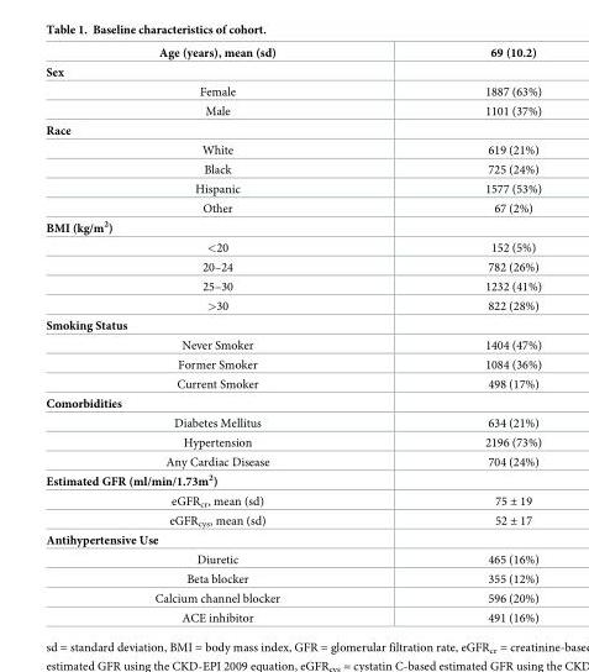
<table><thead><tr><td>Age (years), mean (sd)</td><td>69 (10.2)</td></tr></thead><tbody><tr><td colspan="2">Sex</td></tr><tr><td>Female</td><td>1887 (63%)</td></tr><tr><td>Male</td><td>1101 (37%)</td></tr><tr><td colspan="2">Race</td></tr><tr><td>White</td><td>619 (21%)</td></tr><tr><td>Black</td><td>725 (24%)</td></tr><tr><td>Hispanic</td><td>1577 (53%)</td></tr><tr><td>Other</td><td>67 (2%)</td></tr><tr><td colspan="2">BMI (kg/m<sup>2</sup>)</td></tr><tr><td>&lt;20</td><td>152 (5%)</td></tr><tr><td>20–24</td><td>782 (26%)</td></tr><tr><td>25–30</td><td>1232 (41%)</td></tr><tr><td>&gt;30</td><td>822 (28%)</td></tr><tr><td colspan="2">Smoking Status</td></tr><tr><td>Never Smoker</td><td>1404 (47%)</td></tr><tr><td>Former Smoker</td><td>1084 (36%)</td></tr><tr><td>Current Smoker</td><td>498 (17%)</td></tr><tr><td colspan="2">Comorbidities</td></tr><tr><td>Diabetes Mellitus</td><td>634 (21%)</td></tr><tr><td>Hypertension</td><td>2196 (73%)</td></tr><tr><td>Any Cardiac Disease</td><td>704 (24%)</td></tr><tr><td colspan="2">Estimated GFR (ml/min/1.73m<sup>2</sup>)</td></tr><tr><td>eGFR<sub>cr</sub>, mean (sd)</td><td>75 ± 19</td></tr><tr><td>eGFR<sub>cys</sub>, mean (sd)</td><td>52 ± 17</td></tr><tr><td colspan="2">Antihypertensive Use</td></tr><tr><td>Diuretic</td><td>465 (16%)</td></tr><tr><td>Beta blocker</td><td>355 (12%)</td></tr><tr><td>Calcium channel blocker</td><td>596 (20%)</td></tr><tr><td>ACE inhibitor</td><td>491 (16%)</td></tr></tbody></table>